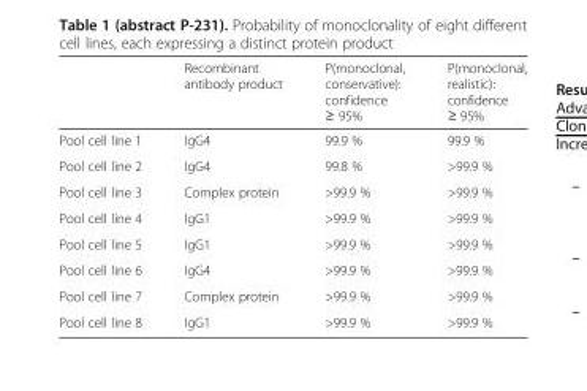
<table><thead><tr><td></td><td>Recombinant antibody product</td><td>P(monoclonal, conservative): confidence ≥ 95%</td><td>P(monoclonal, realistic): confidence ≥ 95%</td></tr></thead><tbody><tr><td>Pool cell line 1</td><td>IgG4</td><td>99.9 %</td><td>99.9 %</td></tr><tr><td>Pool cell line 2</td><td>IgG4</td><td>99.8 %</td><td>&gt;99.9 %</td></tr><tr><td>Pool cell line 3</td><td>Complex protein</td><td>&gt;99.9 %</td><td>&gt;99.9 %</td></tr><tr><td>Pool cell line 4</td><td>IgG1</td><td>&gt;99.9 %</td><td>&gt;99.9 %</td></tr><tr><td>Pool cell line 5</td><td>IgG1</td><td>&gt;99.9 %</td><td>&gt;99.9 %</td></tr><tr><td>Pool cell line 6</td><td>IgG4</td><td>&gt;99.9 %</td><td>&gt;99.9 %</td></tr><tr><td>Pool cell line 7</td><td>Complex protein</td><td>&gt;99.9 %</td><td>&gt;99.9 %</td></tr><tr><td>Pool cell line 8</td><td>IgG1</td><td>&gt;99.9 %</td><td>&gt;99.9 %</td></tr></tbody></table>